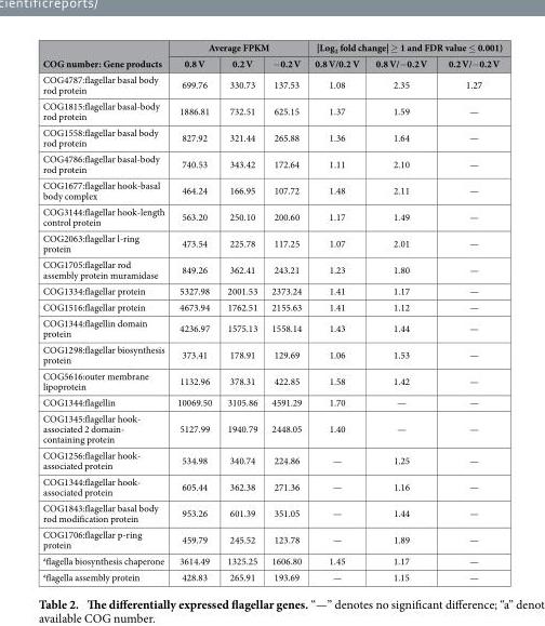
<table><thead><tr><td rowspan="2">COG number: Gene products</td><td colspan="3">Average FPKM</td><td colspan="3">|Log<sub>2</sub> fold change| ≥ 1 and FDR value ≤ 0.001)</td></tr><tr><td>0.8 V</td><td>0.2 V</td><td>− 0.2 V</td><td>0.8 V/0.2 V</td><td>0.8 V/− 0.2 V</td><td>0.2 V/− 0.2 V</td></tr></thead><tbody><tr><td>COG4787:flagellar basal body rod protein</td><td>699.76</td><td>330.73</td><td>137.53</td><td>1.08</td><td>2.35</td><td>1.27</td></tr><tr><td>COG1815:flagellar basal-body rod protein</td><td>1886.81</td><td>732.51</td><td>625.15</td><td>1.37</td><td>1.59</td><td>—</td></tr><tr><td>COG1558:flagellar basal body rod protein</td><td>827.92</td><td>321.44</td><td>265.88</td><td>1.36</td><td>1.64</td><td>—</td></tr><tr><td>COG4786:flagellar basal-body rod protein</td><td>740.53</td><td>343.42</td><td>172.64</td><td>1.11</td><td>2.10</td><td>—</td></tr><tr><td>COG1677:flagellar hook-basal body complex</td><td>464.24</td><td>166.95</td><td>107.72</td><td>1.48</td><td>2.11</td><td>—</td></tr><tr><td>COG3144:flagellar hook-length control protein</td><td>563.20</td><td>250.10</td><td>200.60</td><td>1.17</td><td>1.49</td><td>—</td></tr><tr><td>COG2063:flagellar l-ring protein</td><td>473.54</td><td>225.78</td><td>117.25</td><td>1.07</td><td>2.01</td><td>—</td></tr><tr><td>COG1705:flagellar rod assembly protein muramidase</td><td>849.26</td><td>362.41</td><td>243.21</td><td>1.23</td><td>1.80</td><td>—</td></tr><tr><td>COG1334:flagellar protein</td><td>5327.98</td><td>2001.53</td><td>2373.24</td><td>1.41</td><td>1.17</td><td>—</td></tr><tr><td>COG1516:flagellar protein</td><td>4673.94</td><td>1762.51</td><td>2155.63</td><td>1.41</td><td>1.12</td><td>—</td></tr><tr><td>COG1344:flagellin domain protein</td><td>4236.97</td><td>1575.13</td><td>1558.14</td><td>1.43</td><td>1.44</td><td>—</td></tr><tr><td>COG1298:flagellar biosynthesis protein</td><td>373.41</td><td>178.91</td><td>129.69</td><td>1.06</td><td>1.53</td><td>—</td></tr><tr><td>COG5616:outer membrane lipoprotein</td><td>1132.96</td><td>378.31</td><td>422.85</td><td>1.58</td><td>1.42</td><td>—</td></tr><tr><td>COG1344:flagellin</td><td>10069.50</td><td>3105.86</td><td>4591.29</td><td>1.70</td><td>—</td><td>—</td></tr><tr><td>COG1345:flagellar hook- associated 2 domain- containing protein</td><td>5127.99</td><td>1940.79</td><td>2448.05</td><td>1.40</td><td>—</td><td>—</td></tr><tr><td>COG1256:flagellar hook- associated protein</td><td>534.98</td><td>340.74</td><td>224.86</td><td>—</td><td>1.25</td><td>—</td></tr><tr><td>COG1344:flagellar hook- associated protein</td><td>605.44</td><td>362.38</td><td>271.36</td><td>—</td><td>1.16</td><td>—</td></tr><tr><td>COG1843:flagellar basal body rod modification protein</td><td>953.26</td><td>601.39</td><td>351.05</td><td>—</td><td>1.44</td><td>—</td></tr><tr><td>COG1706:flagellar p-ring protein</td><td>459.79</td><td>245.52</td><td>123.78</td><td>—</td><td>1.89</td><td>—</td></tr><tr><td><sup>a</sup>flagella biosynthesis chaperone</td><td>3614.49</td><td>1325.25</td><td>1606.80</td><td>1.45</td><td>1.17</td><td>—</td></tr><tr><td><sup>a</sup>flagella assembly protein</td><td>428.83</td><td>265.91</td><td>193.69</td><td>—</td><td>1.15</td><td>—</td></tr></tbody></table>